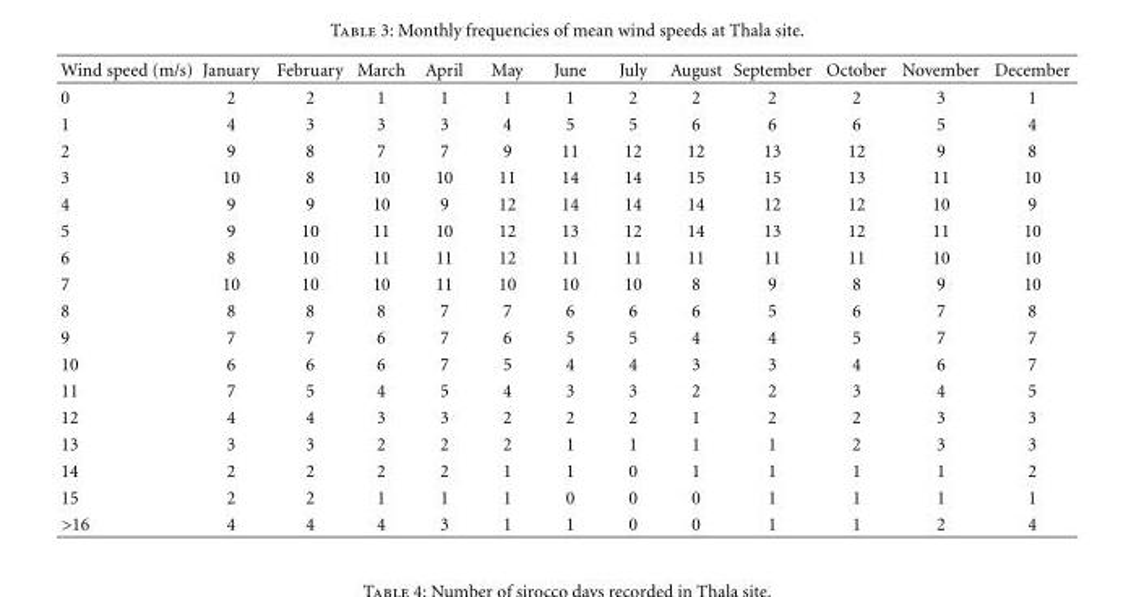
<table><thead><tr><td>Wind speed (m/s)</td><td>January</td><td>February</td><td>March</td><td>April</td><td>May</td><td>June</td><td>July</td><td>August</td><td>September</td><td>October</td><td>November</td><td>December</td></tr></thead><tbody><tr><td>0</td><td>2</td><td>2</td><td>1</td><td>1</td><td>1</td><td>1</td><td>2</td><td>2</td><td>2</td><td>2</td><td>3</td><td>1</td></tr><tr><td>1</td><td>4</td><td>3</td><td>3</td><td>3</td><td>4</td><td>5</td><td>5</td><td>6</td><td>6</td><td>6</td><td>5</td><td>4</td></tr><tr><td>2</td><td>9</td><td>8</td><td>7</td><td>7</td><td>9</td><td>11</td><td>12</td><td>12</td><td>13</td><td>12</td><td>9</td><td>8</td></tr><tr><td>3</td><td>10</td><td>8</td><td>10</td><td>10</td><td>11</td><td>14</td><td>14</td><td>15</td><td>15</td><td>13</td><td>11</td><td>10</td></tr><tr><td>4</td><td>9</td><td>9</td><td>10</td><td>9</td><td>12</td><td>14</td><td>14</td><td>14</td><td>12</td><td>12</td><td>10</td><td>9</td></tr><tr><td>5</td><td>9</td><td>10</td><td>11</td><td>10</td><td>12</td><td>13</td><td>12</td><td>14</td><td>13</td><td>12</td><td>11</td><td>10</td></tr><tr><td>6</td><td>8</td><td>10</td><td>11</td><td>11</td><td>12</td><td>11</td><td>11</td><td>11</td><td>11</td><td>11</td><td>10</td><td>10</td></tr><tr><td>7</td><td>10</td><td>10</td><td>10</td><td>11</td><td>10</td><td>10</td><td>10</td><td>8</td><td>9</td><td>8</td><td>9</td><td>10</td></tr><tr><td>8</td><td>8</td><td>8</td><td>8</td><td>7</td><td>7</td><td>6</td><td>6</td><td>6</td><td>5</td><td>6</td><td>7</td><td>8</td></tr><tr><td>9</td><td>7</td><td>7</td><td>6</td><td>7</td><td>6</td><td>5</td><td>5</td><td>4</td><td>4</td><td>5</td><td>7</td><td>7</td></tr><tr><td>10</td><td>6</td><td>6</td><td>6</td><td>7</td><td>5</td><td>4</td><td>4</td><td>3</td><td>3</td><td>4</td><td>6</td><td>7</td></tr><tr><td>11</td><td>7</td><td>5</td><td>4</td><td>5</td><td>4</td><td>3</td><td>3</td><td>2</td><td>2</td><td>3</td><td>4</td><td>5</td></tr><tr><td>12</td><td>4</td><td>4</td><td>3</td><td>3</td><td>2</td><td>2</td><td>2</td><td>1</td><td>2</td><td>2</td><td>3</td><td>3</td></tr><tr><td>13</td><td>3</td><td>3</td><td>2</td><td>2</td><td>2</td><td>1</td><td>1</td><td>1</td><td>1</td><td>2</td><td>3</td><td>3</td></tr><tr><td>14</td><td>2</td><td>2</td><td>2</td><td>2</td><td>1</td><td>1</td><td>0</td><td>1</td><td>1</td><td>1</td><td>1</td><td>2</td></tr><tr><td>15</td><td>2</td><td>2</td><td>1</td><td>1</td><td>1</td><td>0</td><td>0</td><td>0</td><td>1</td><td>1</td><td>1</td><td>1</td></tr><tr><td>&gt;16</td><td>4</td><td>4</td><td>4</td><td>3</td><td>1</td><td>1</td><td>0</td><td>0</td><td>1</td><td>1</td><td>2</td><td>4</td></tr></tbody></table>